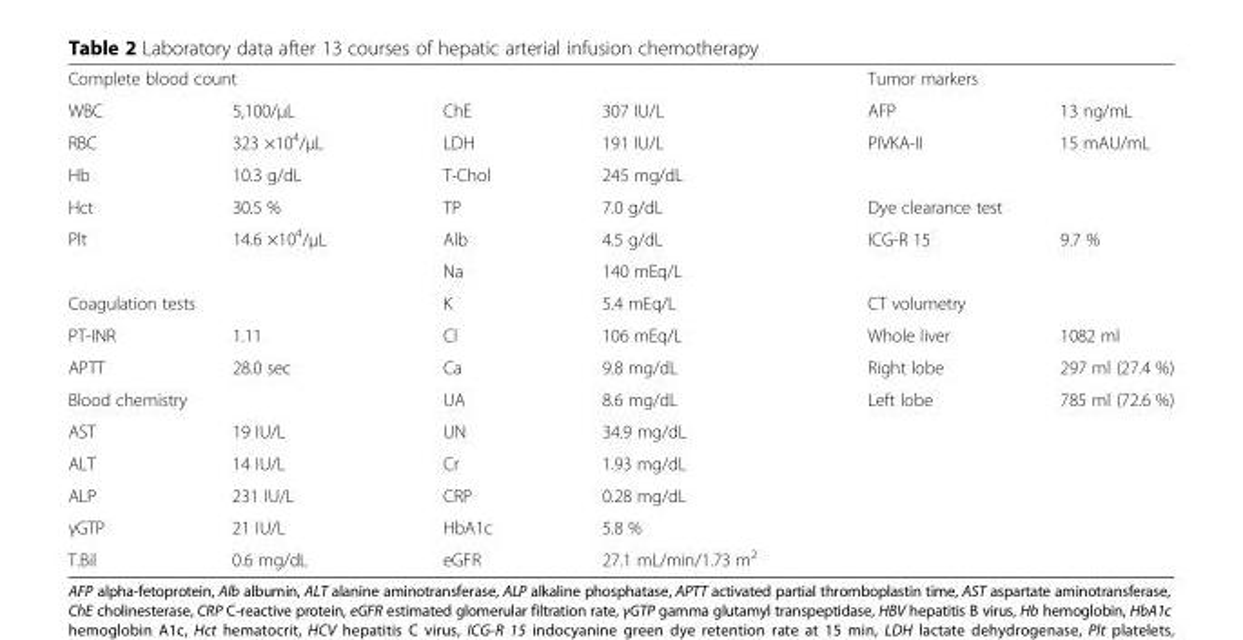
<table><tbody><tr><td colspan="2">Complete blood count</td><td></td><td></td><td colspan="2">Tumor markers</td></tr><tr><td>WBC</td><td>5,100/μL</td><td>ChE</td><td>307 IU/L</td><td>AFP</td><td>13 ng/mL</td></tr><tr><td>RBC</td><td>323 ×10<sup>4</sup>/μL</td><td>LDH</td><td>191 IU/L</td><td>PIVKA-II</td><td>15 mAU/mL</td></tr><tr><td>Hb</td><td>10.3 g/dL</td><td>T-Chol</td><td>245 mg/dL</td><td></td><td></td></tr><tr><td>Hct</td><td>30.5 %</td><td>TP</td><td>7.0 g/dL</td><td colspan="2">Dye clearance test</td></tr><tr><td rowspan="2">Plt</td><td>14.6 ×10<sup>4</sup>/μL</td><td>Alb</td><td>4.5 g/dL</td><td>ICG-R 15</td><td>9.7 %</td></tr><tr><td></td><td>Na</td><td>140 mEq/L</td><td></td><td></td></tr><tr><td colspan="2">Coagulation tests</td><td>K</td><td>5.4 mEq/L</td><td colspan="2">CT volumetry</td></tr><tr><td>PT-INR</td><td>1.11</td><td>Cl</td><td>106 mEq/L</td><td>Whole liver</td><td>1082 ml</td></tr><tr><td>APTT</td><td>28.0 sec</td><td>Ca</td><td>9.8 mg/dL</td><td>Right lobe</td><td>297 ml (27.4 %)</td></tr><tr><td colspan="2">Blood chemistry</td><td>UA</td><td>8.6 mg/dL</td><td>Left lobe</td><td>785 ml (72.6 %)</td></tr><tr><td>AST</td><td>19 IU/L</td><td>UN</td><td>34.9 mg/dL</td><td></td><td></td></tr><tr><td>ALT</td><td>14 IU/L</td><td>Cr</td><td>1.93 mg/dL</td><td></td><td></td></tr><tr><td>ALP</td><td>231 IU/L</td><td>CRP</td><td>0.28 mg/dL</td><td></td><td></td></tr><tr><td>γGTP</td><td>21 IU/L</td><td>HbA1c</td><td>5.8 %</td><td></td><td></td></tr><tr><td>T.Bil</td><td>0.6 mg/dL</td><td>eGFR</td><td>27.1 mL/min/1.73 m<sup>2</sup></td><td></td><td></td></tr></tbody></table>